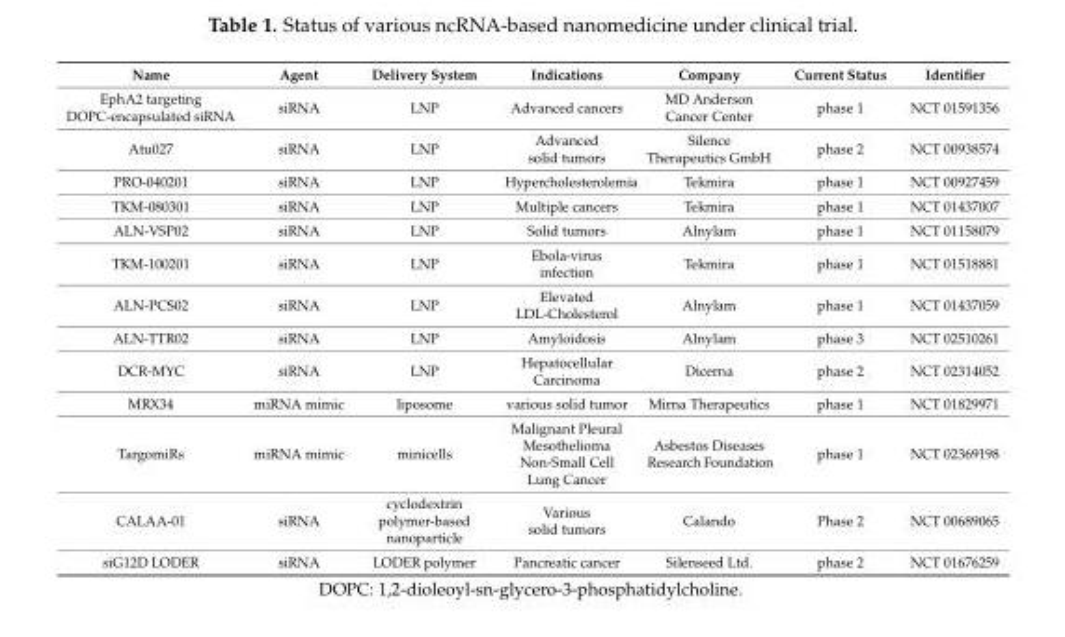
<table><thead><tr><td>Name</td><td>Agent</td><td>Delivery System</td><td>Indications</td><td>Company</td><td>Current Status</td><td>Identifier</td></tr></thead><tbody><tr><td>EphA2 targeting DOPC-encapsulated siRNA</td><td>siRNA</td><td>LNP</td><td>Advanced cancers</td><td>MD Anderson Cancer Center</td><td>phase 1</td><td>NCT 01591356</td></tr><tr><td>Atu027</td><td>siRNA</td><td>LNP</td><td>Advanced solid tumors</td><td>Silence Therapeutics GmbH</td><td>phase 2</td><td>NCT 00938574</td></tr><tr><td>PRO-040201</td><td>siRNA</td><td>LNP</td><td>Hypercholesterolemia</td><td>Tekmira</td><td>phase 1</td><td>NCT 00927459</td></tr><tr><td>TKM-080301</td><td>siRNA</td><td>LNP</td><td>Multiple cancers</td><td>Tekmira</td><td>phase 1</td><td>NCT 01437007</td></tr><tr><td>ALN-VSP02</td><td>siRNA</td><td>LNP</td><td>Solid tumors</td><td>Alnylam</td><td>phase 1</td><td>NCT 01158079</td></tr><tr><td>TKM-100201</td><td>siRNA</td><td>LNP</td><td>Ebola-virus infection</td><td>Tekmira</td><td>phase 1</td><td>NCT 01518881</td></tr><tr><td>ALN-PCS02</td><td>siRNA</td><td>LNP</td><td>Elevated LDL-Cholesterol</td><td>Alnylam</td><td>phase 1</td><td>NCT 01437059</td></tr><tr><td>ALN-TTR02</td><td>siRNA</td><td>LNP</td><td>Amyloidosis</td><td>Alnylam</td><td>phase 3</td><td>NCT 02510261</td></tr><tr><td>DCR-MYC</td><td>siRNA</td><td>LNP</td><td>Hepatocellular Carcinoma</td><td>Dicerna</td><td>phase 2</td><td>NCT 02314052</td></tr><tr><td>MRX34</td><td>miRNA mimic</td><td>liposome</td><td>various solid tumor</td><td>Mirna Therapeutics</td><td>phase 1</td><td>NCT 01829971</td></tr><tr><td>TargomiRs</td><td>miRNA mimic</td><td>minicells</td><td>Malignant Pleural Mesothelioma Non-Small Cell Lung Cancer</td><td>Asbestos Diseases Research Foundation</td><td>phase 1</td><td>NCT 02369198</td></tr><tr><td>CALAA-01</td><td>siRNA</td><td>cyclodextrin polymer-based nanoparticle</td><td>Various solid tumors</td><td>Calando</td><td>Phase 2</td><td>NCT 00689065</td></tr><tr><td>siG12D LODER</td><td>siRNA</td><td>LODER polymer</td><td>Pancreatic cancer</td><td>Silenseed Ltd.</td><td>phase 2</td><td>NCT 01676259</td></tr></tbody></table>